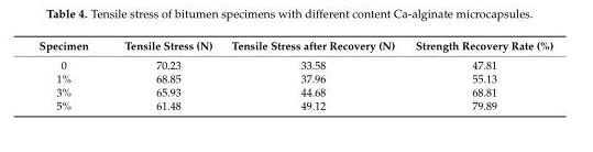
<table><thead><tr><td>Specimen</td><td>Tensile Stress (N)</td><td>Tensile Stress after Recovery (N)</td><td>Strength Recovery Rate (%)</td></tr></thead><tbody><tr><td>0</td><td>70.23</td><td>33.58</td><td>47.81</td></tr><tr><td>1%</td><td>68.85</td><td>37.96</td><td>55.13</td></tr><tr><td>3%</td><td>65.93</td><td>44.68</td><td>68.81</td></tr><tr><td>5%</td><td>61.48</td><td>49.12</td><td>79.89</td></tr></tbody></table>